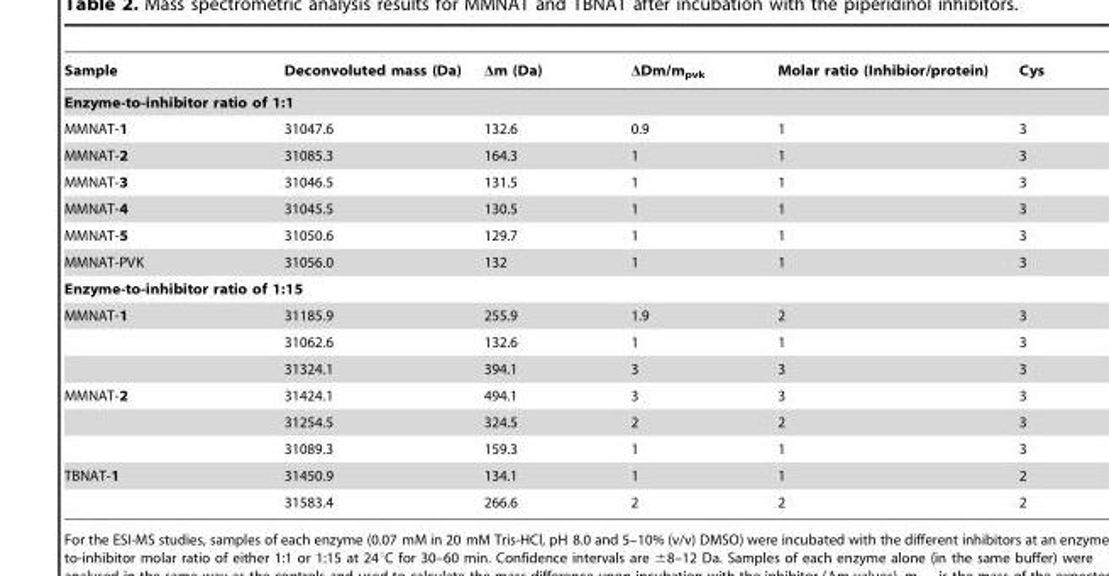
<table><thead><tr><td>Sample</td><td>Deconvoluted mass (Da)</td><td>Δm (Da)</td><td>ΔDm/m<sub>pvk</sub></td><td>Molar ratio (Inhibior/protein)</td><td>Cys</td></tr></thead><tbody><tr><td colspan="6">Enzyme-to-inhibitor ratio of 1:1</td></tr><tr><td>MMNAT-1</td><td>31047.6</td><td>132.6</td><td>0.9</td><td>1</td><td>3</td></tr><tr><td>MMNAT-2</td><td>31085.3</td><td>164.3</td><td>1</td><td>1</td><td>3</td></tr><tr><td>MMNAT-3</td><td>31046.5</td><td>131.5</td><td>1</td><td>1</td><td>3</td></tr><tr><td>MMNAT-4</td><td>31045.5</td><td>130.5</td><td>1</td><td>1</td><td>3</td></tr><tr><td>MMNAT-5</td><td>31050.6</td><td>129.7</td><td>1</td><td>1</td><td>3</td></tr><tr><td>MMNAT-PVK</td><td>31056.0</td><td>132</td><td>1</td><td>1</td><td>3</td></tr><tr><td colspan="6">Enzyme-to-inhibitor ratio of 1:15</td></tr><tr><td rowspan="3">MMNAT-1</td><td>31185.9</td><td>255.9</td><td>1.9</td><td>2</td><td>3</td></tr><tr><td>31062.6</td><td>132.6</td><td>1</td><td>1</td><td>3</td></tr><tr><td>31324.1</td><td>394.1</td><td>3</td><td>3</td><td>3</td></tr><tr><td rowspan="3">MMNAT-2</td><td>31424.1</td><td>494.1</td><td>3</td><td>3</td><td>3</td></tr><tr><td>31254.5</td><td>324.5</td><td>2</td><td>2</td><td>3</td></tr><tr><td>31089.3</td><td>159.3</td><td>1</td><td>1</td><td>3</td></tr><tr><td rowspan="2">TBNAT-1</td><td>31450.9</td><td>134.1</td><td>1</td><td>1</td><td>2</td></tr><tr><td>31583.4</td><td>266.6</td><td>2</td><td>2</td><td>2</td></tr></tbody></table>